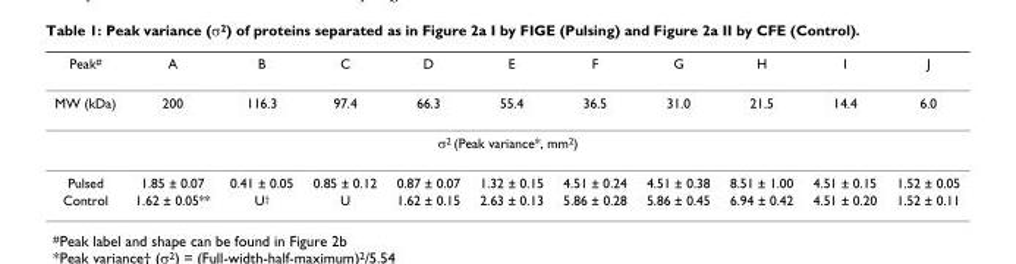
<table><thead><tr><td>Peak<sup>#</sup></td><td>A</td><td>B</td><td>C</td><td>D</td><td>E</td><td>F</td><td>G</td><td>H</td><td>I</td><td>J</td></tr></thead><tbody><tr><td>MW (kDa)</td><td>200</td><td>116.3</td><td>97.4</td><td>66.3</td><td>55.4</td><td>36.5</td><td>31.0</td><td>21.5</td><td>14.4</td><td>6.0</td></tr><tr><td colspan="11">σ<sup>2</sup> (Peak variance*, mm<sup>2</sup>)</td></tr><tr><td>Pulsed</td><td>1.85 ± 0.07</td><td>0.41 ± 0.05</td><td>0.85 ± 0.12</td><td>0.87 ± 0.07</td><td>1.32 ± 0.15</td><td>4.51 ± 0.24</td><td>4.51 ± 0.38</td><td>8.51 ± 1.00</td><td>4.51 ± 0.15</td><td>1.52 ± 0.05</td></tr><tr><td>Control</td><td>1.62 ± 0.05**</td><td>U<sup>†</sup></td><td>U</td><td>1.62 ± 0.15</td><td>2.63 ± 0.13</td><td>5.86 ± 0.28</td><td>5.86 ± 0.45</td><td>6.94 ± 0.42</td><td>4.51 ± 0.20</td><td>1.52 ± 0.11</td></tr></tbody></table>